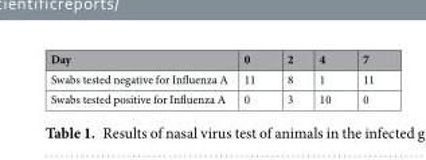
<table><thead><tr><td>Day</td><td>0</td><td>2</td><td>4</td><td>7</td></tr></thead><tbody><tr><td>Swabs tested negative for Influenza A</td><td>11</td><td>8</td><td>1</td><td>11</td></tr><tr><td>Swabs tested positive for Influenza A</td><td>0</td><td>3</td><td>10</td><td>0</td></tr></tbody></table>